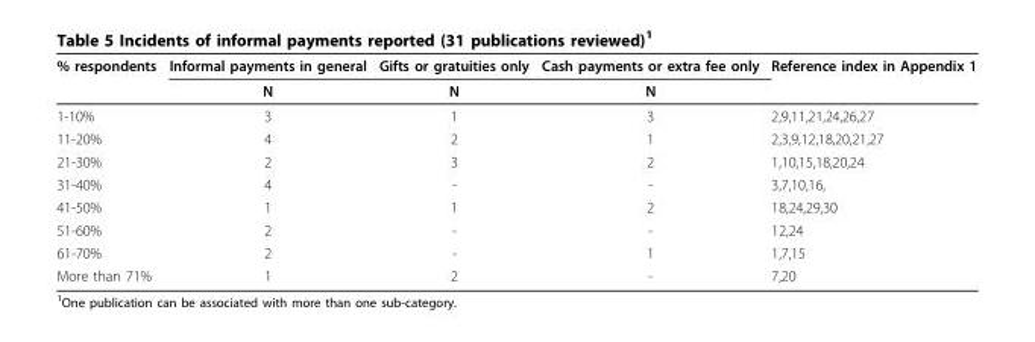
<table><thead><tr><td rowspan="2">% respondents</td><td rowspan="2">Informal payments in general N</td><td rowspan="2">Gifts or gratuities only N</td><td rowspan="2">Cash payments or extra fee only N</td><td rowspan="2">Reference index in Appendix 1</td></tr><tr></tr></thead><tbody><tr><td>1-10%</td><td>3</td><td>1</td><td>3</td><td>2,9,11,21,24,26,27</td></tr><tr><td>11-20%</td><td>4</td><td>2</td><td>1</td><td>2,3,9,12,18,20,21,27</td></tr><tr><td>21-30%</td><td>2</td><td>3</td><td>2</td><td>1,10,15,18,20,24</td></tr><tr><td>31-40%</td><td>4</td><td>-</td><td>-</td><td>3,7,10,16,</td></tr><tr><td>41-50%</td><td>1</td><td>1</td><td>2</td><td>18,24,29,30</td></tr><tr><td>51-60%</td><td>2</td><td>-</td><td>-</td><td>12,24</td></tr><tr><td>61-70%</td><td>2</td><td>-</td><td>1</td><td>1,7,15</td></tr><tr><td>More than 71%</td><td>1</td><td>2</td><td>-</td><td>7,20</td></tr></tbody></table>